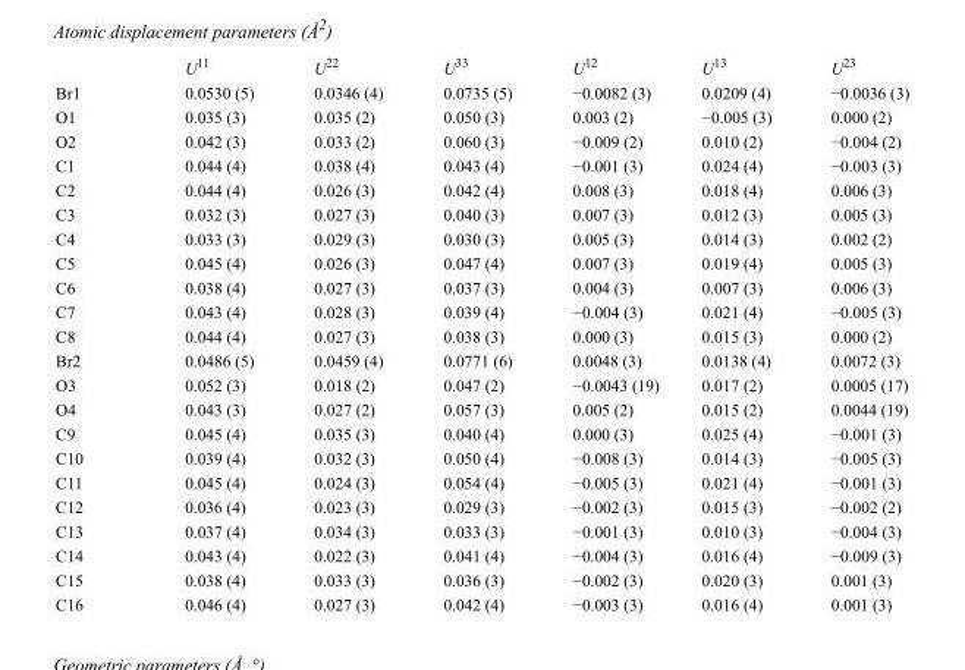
<table><thead><tr><td></td><td>U<sup>11</sup></td><td>U<sup>22</sup></td><td>U<sup>33</sup></td><td>U<sup>12</sup></td><td>U<sup>13</sup></td><td>U<sup>23</sup></td></tr></thead><tbody><tr><td>Br1</td><td>0.0530 (5)</td><td>0.0346 (4)</td><td>0.0735 (5)</td><td>−0.0082 (3)</td><td>0.0209 (4)</td><td>−0.0036 (3)</td></tr><tr><td>O1</td><td>0.035 (3)</td><td>0.035 (2)</td><td>0.050 (3)</td><td>0.003 (2)</td><td>−0.005 (3)</td><td>0.000 (2)</td></tr><tr><td>O2</td><td>0.042 (3)</td><td>0.033 (2)</td><td>0.060 (3)</td><td>−0.009 (2)</td><td>0.010 (2)</td><td>−0.004 (2)</td></tr><tr><td>C1</td><td>0.044 (4)</td><td>0.038 (4)</td><td>0.043 (4)</td><td>−0.001 (3)</td><td>0.024 (4)</td><td>−0.003 (3)</td></tr><tr><td>C2</td><td>0.044 (4)</td><td>0.026 (3)</td><td>0.042 (4)</td><td>0.008 (3)</td><td>0.018 (4)</td><td>0.006 (3)</td></tr><tr><td>C3</td><td>0.032 (3)</td><td>0.027 (3)</td><td>0.040 (3)</td><td>0.007 (3)</td><td>0.012 (3)</td><td>0.005 (3)</td></tr><tr><td>C4</td><td>0.033 (3)</td><td>0.029 (3)</td><td>0.030 (3)</td><td>0.005 (3)</td><td>0.014 (3)</td><td>0.002 (2)</td></tr><tr><td>C5</td><td>0.045 (4)</td><td>0.026 (3)</td><td>0.047 (4)</td><td>0.007 (3)</td><td>0.019 (4)</td><td>0.005 (3)</td></tr><tr><td>C6</td><td>0.038 (4)</td><td>0.027 (3)</td><td>0.037 (3)</td><td>0.004 (3)</td><td>0.007 (3)</td><td>0.006 (3)</td></tr><tr><td>C7</td><td>0.043 (4)</td><td>0.028 (3)</td><td>0.039 (4)</td><td>−0.004 (3)</td><td>0.021 (4)</td><td>−0.005 (3)</td></tr><tr><td>C8</td><td>0.044 (4)</td><td>0.027 (3)</td><td>0.038 (3)</td><td>0.000 (3)</td><td>0.015 (3)</td><td>0.000 (2)</td></tr><tr><td>Br2</td><td>0.0486 (5)</td><td>0.0459 (4)</td><td>0.0771 (6)</td><td>0.0048 (3)</td><td>0.0138 (4)</td><td>0.0072 (3)</td></tr><tr><td>O3</td><td>0.052 (3)</td><td>0.018 (2)</td><td>0.047 (2)</td><td>−0.0043 (19)</td><td>0.017 (2)</td><td>0.0005 (17)</td></tr><tr><td>O4</td><td>0.043 (3)</td><td>0.027 (2)</td><td>0.057 (3)</td><td>0.005 (2)</td><td>0.015 (2)</td><td>0.0044 (19)</td></tr><tr><td>C9</td><td>0.045 (4)</td><td>0.035 (3)</td><td>0.040 (4)</td><td>0.000 (3)</td><td>0.025 (4)</td><td>−0.001 (3)</td></tr><tr><td>C10</td><td>0.039 (4)</td><td>0.032 (3)</td><td>0.050 (4)</td><td>−0.008 (3)</td><td>0.014 (3)</td><td>−0.005 (3)</td></tr><tr><td>C11</td><td>0.045 (4)</td><td>0.024 (3)</td><td>0.054 (4)</td><td>−0.005 (3)</td><td>0.021 (4)</td><td>−0.001 (3)</td></tr><tr><td>C12</td><td>0.036 (4)</td><td>0.023 (3)</td><td>0.029 (3)</td><td>−0.002 (3)</td><td>0.015 (3)</td><td>−0.002 (2)</td></tr><tr><td>C13</td><td>0.037 (4)</td><td>0.034 (3)</td><td>0.033 (3)</td><td>−0.001 (3)</td><td>0.010 (3)</td><td>−0.004 (3)</td></tr><tr><td>C14</td><td>0.043 (4)</td><td>0.022 (3)</td><td>0.041 (4)</td><td>−0.004 (3)</td><td>0.016 (4)</td><td>−0.009 (3)</td></tr><tr><td>C15</td><td>0.038 (4)</td><td>0.033 (3)</td><td>0.036 (3)</td><td>−0.002 (3)</td><td>0.020 (3)</td><td>0.001 (3)</td></tr><tr><td>C16</td><td>0.046 (4)</td><td>0.027 (3)</td><td>0.042 (4)</td><td>−0.003 (3)</td><td>0.016 (4)</td><td>0.001 (3)</td></tr></tbody></table>